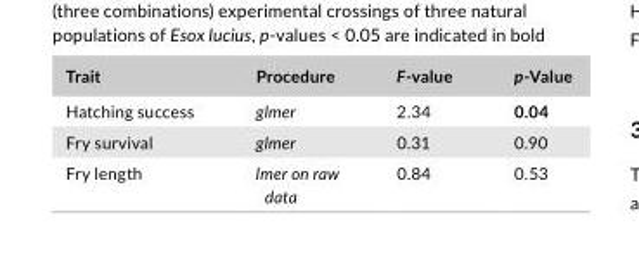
<table><thead><tr><td>Trait</td><td>Procedure</td><td>F- value</td><td>p- Value</td></tr></thead><tbody><tr><td>Hatching success</td><td>glmer</td><td>2.34</td><td>0.04</td></tr><tr><td>Fry survival</td><td>glmer</td><td>0.31</td><td>0.90</td></tr><tr><td>Fry length</td><td>lmer on raw data</td><td>0.84</td><td>0.53</td></tr></tbody></table>